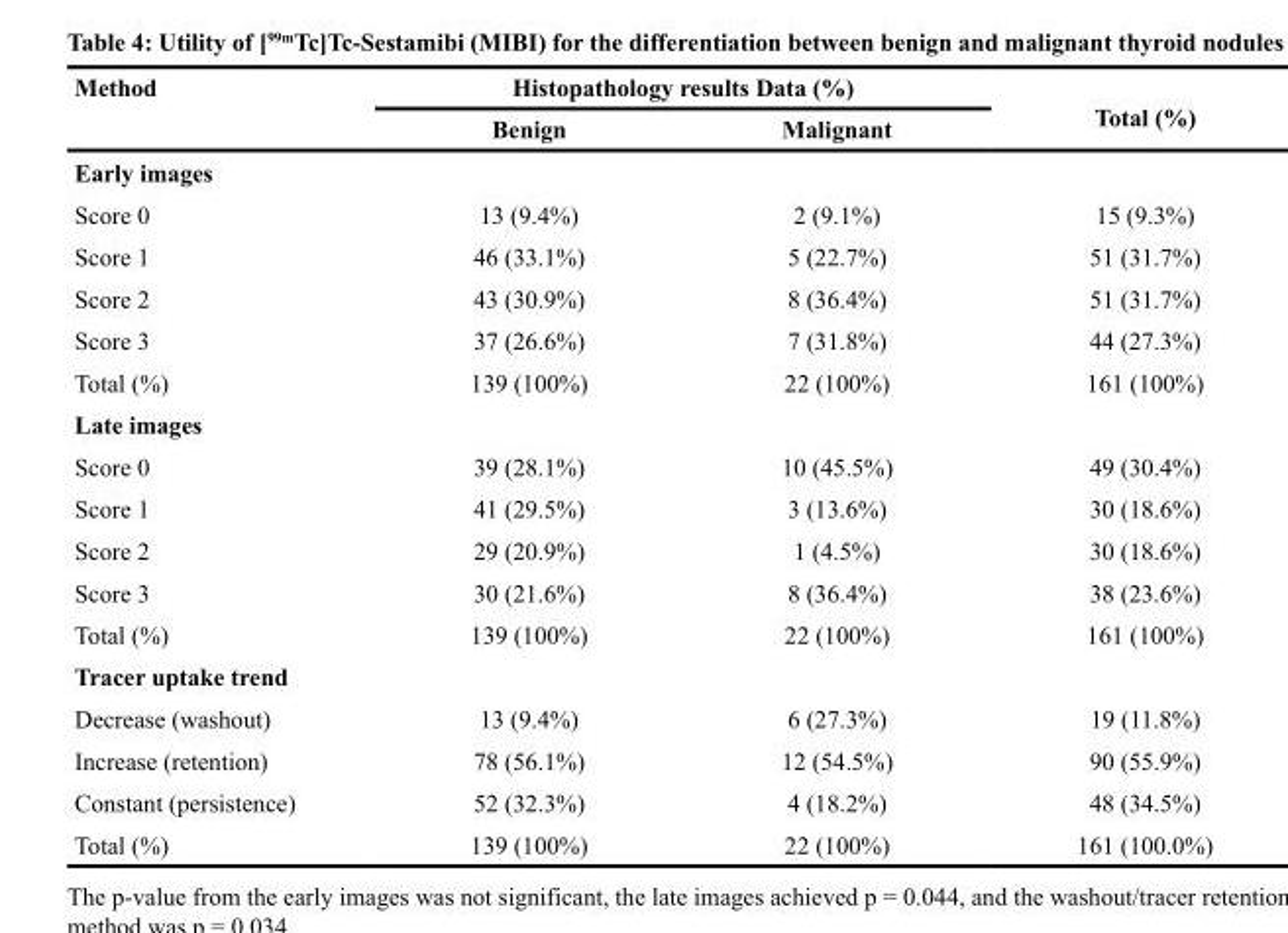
<table><thead><tr><td rowspan="2">Method</td><td colspan="2">Histopathology results Data (%)</td><td rowspan="2">Total (%)</td></tr><tr><td>Benign</td><td>Malignant</td></tr></thead><tbody><tr><td colspan="4">Early images</td></tr><tr><td>Score 0</td><td>13 (9.4%)</td><td>2 (9.1%)</td><td>15 (9.3%)</td></tr><tr><td>Score 1</td><td>46 (33.1%)</td><td>5 (22.7%)</td><td>51 (31.7%)</td></tr><tr><td>Score 2</td><td>43 (30.9%)</td><td>8 (36.4%)</td><td>51 (31.7%)</td></tr><tr><td>Score 3</td><td>37 (26.6%)</td><td>7 (31.8%)</td><td>44 (27.3%)</td></tr><tr><td>Total (%)</td><td>139 (100%)</td><td>22 (100%)</td><td>161 (100%)</td></tr><tr><td colspan="4">Late images</td></tr><tr><td>Score 0</td><td>39 (28.1%)</td><td>10 (45.5%)</td><td>49 (30.4%)</td></tr><tr><td>Score 1</td><td>41 (29.5%)</td><td>3 (13.6%)</td><td>30 (18.6%)</td></tr><tr><td>Score 2</td><td>29 (20.9%)</td><td>1 (4.5%)</td><td>30 (18.6%)</td></tr><tr><td>Score 3</td><td>30 (21.6%)</td><td>8 (36.4%)</td><td>38 (23.6%)</td></tr><tr><td>Total (%)</td><td>139 (100%)</td><td>22 (100%)</td><td>161 (100%)</td></tr><tr><td colspan="4">Tracer uptake trend</td></tr><tr><td>Decrease (washout)</td><td>13 (9.4%)</td><td>6 (27.3%)</td><td>19 (11.8%)</td></tr><tr><td>Increase (retention)</td><td>78 (56.1%)</td><td>12 (54.5%)</td><td>90 (55.9%)</td></tr><tr><td>Constant (persistence)</td><td>52 (32.3%)</td><td>4 (18.2%)</td><td>48 (34.5%)</td></tr><tr><td>Total (%)</td><td>139 (100%)</td><td>22 (100%)</td><td>161 (100.0%)</td></tr></tbody></table>